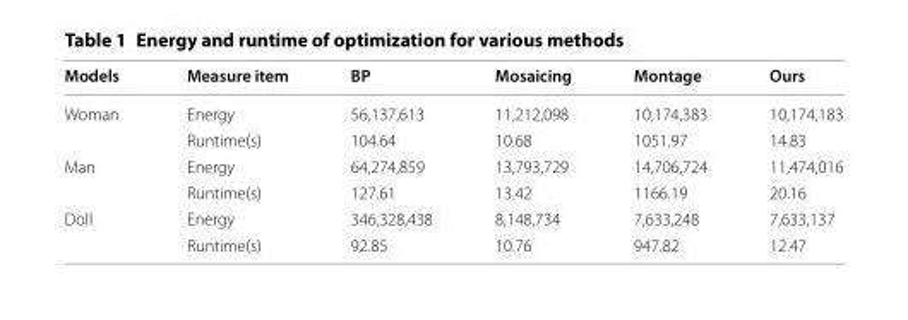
<table><thead><tr><td>Models</td><td>Measure item</td><td>BP</td><td>Mosaicing</td><td>Montage</td><td>Ours</td></tr></thead><tbody><tr><td rowspan="2">Woman</td><td>Energy</td><td>56,137,613</td><td>11,212,098</td><td>10,174,383</td><td>10,174,183</td></tr><tr><td>Runtime(s)</td><td>104.64</td><td>10.68</td><td>1051.97</td><td>14.83</td></tr><tr><td rowspan="2">Man</td><td>Energy</td><td>64,274,859</td><td>13,793,729</td><td>14,706,724</td><td>11,474,016</td></tr><tr><td>Runtime(s)</td><td>127.61</td><td>13.42</td><td>1166.19</td><td>20.16</td></tr><tr><td rowspan="2">Doll</td><td>Energy</td><td>346,328,438</td><td>8,148,734</td><td>7,633,248</td><td>7,633,137</td></tr><tr><td>Runtime(s)</td><td>92.85</td><td>10.76</td><td>947.82</td><td>12.47</td></tr></tbody></table>